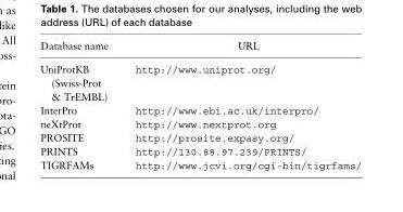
<table><thead><tr><td>Database name</td><td>URL</td></tr></thead><tbody><tr><td>UniProtKB (Swiss-Prot &amp; TrEMBL)</td><td>http://www.uniprot.org/</td></tr><tr><td>InterPro</td><td>http://www.ebi.ac.uk/interpro/</td></tr><tr><td>neXtProt</td><td>http://www.nextprot.org</td></tr><tr><td>PROSITE</td><td>http://prosite.expasy.org/</td></tr><tr><td>PRINTS</td><td>http://130.88.97.239/PRINTS/</td></tr><tr><td>TIGRFAMs</td><td>http://www.jcvi.org/cgi-bin/tigrfams/</td></tr></tbody></table>